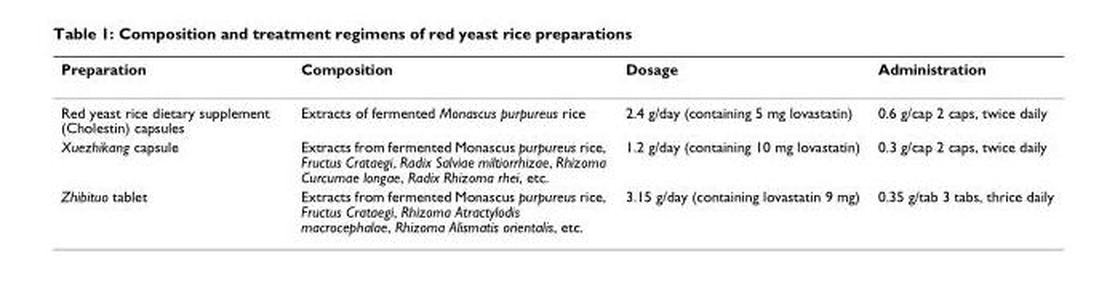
<table><thead><tr><td>Preparation</td><td>Composition</td><td>Dosage</td><td>Administration</td></tr></thead><tbody><tr><td>Red yeast rice dietary supplement (Cholestin) capsules</td><td>Extracts of fermented Monascus purpureus rice</td><td>2.4 g/day (containing 5 mg lovastatin)</td><td>0.6 g/cap 2 caps, twice daily</td></tr><tr><td>Xuezhikang capsule</td><td>Extracts from fermented Monascus purpureus rice, Fructus Crataegi, Radix Salviae miltiorrhizae, Rhizoma Curcumae longae, Radix Rhizoma rhei, etc.</td><td>1.2 g/day (containing 10 mg lovastatin)</td><td>0.3 g/cap 2 caps, twice daily</td></tr><tr><td>Zhibituo tablet</td><td>Extracts from fermented Monascus purpureus rice, Fructus Crataegi, Rhizoma Atractylodis macrocephalae, Rhizoma Alismatis orientalis, etc.</td><td>3.15 g/day (containing lovastatin 9 mg)</td><td>0.35 g/tab 3 tabs, thrice daily</td></tr></tbody></table>